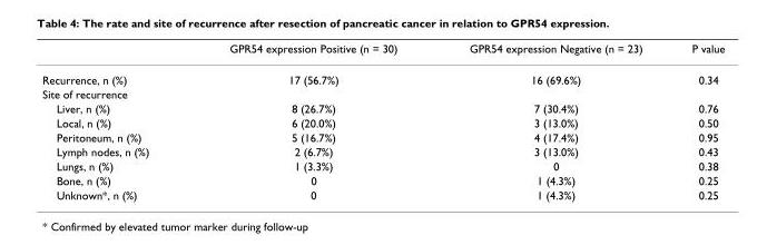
<table><thead><tr><td></td><td>GPR54 expression Positive (n = 30)</td><td>GPR54 expression Negative (n = 23)</td><td>P value</td></tr></thead><tbody><tr><td>Recurrence, n (%)</td><td>17 (56.7%)</td><td>16 (69.6%)</td><td>0.34</td></tr><tr><td colspan="4">Site of recurrence</td></tr><tr><td>Liver, n (%)</td><td>8 (26.7%)</td><td>7 (30.4%)</td><td>0.76</td></tr><tr><td>Local, n (%)</td><td>6 (20.0%)</td><td>3 (13.0%)</td><td>0.50</td></tr><tr><td>Peritoneum, n (%)</td><td>5 (16.7%)</td><td>4 (17.4%)</td><td>0.95</td></tr><tr><td>Lymph nodes, n (%)</td><td>2 (6.7%)</td><td>3 (13.0%)</td><td>0.43</td></tr><tr><td>Lungs, n (%)</td><td>1 (3.3%)</td><td>0</td><td>0.38</td></tr><tr><td>Bone, n (%)</td><td>0</td><td>1 (4.3%)</td><td>0.25</td></tr><tr><td>Unknown*, n (%)</td><td>0</td><td>1 (4.3%)</td><td>0.25</td></tr></tbody></table>